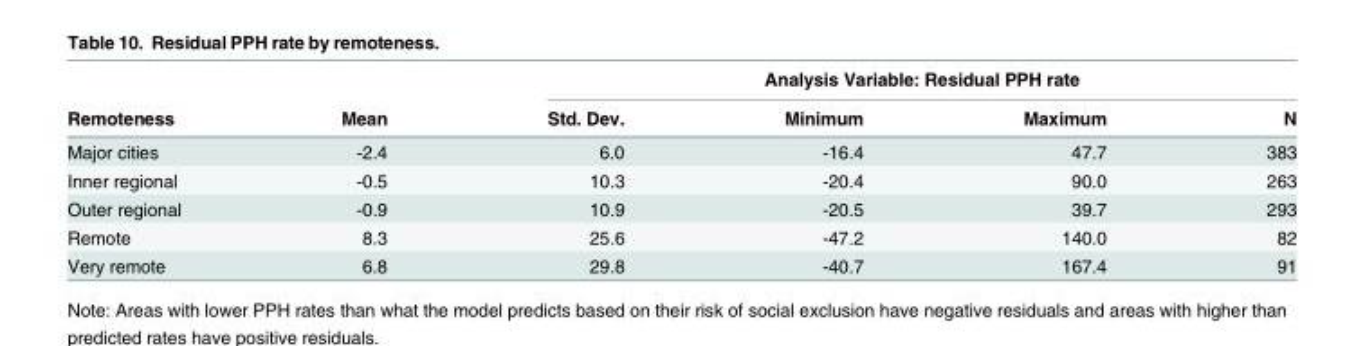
<table><thead><tr><td rowspan="2">Remoteness</td><td rowspan="2">Mean</td><td colspan="4">Analysis Variable: Residual PPH rate</td></tr><tr><td>Std. Dev.</td><td>Minimum</td><td>Maximum</td><td>N</td></tr></thead><tbody><tr><td>Major cities</td><td>-2.4</td><td>6.0</td><td>-16.4</td><td>47.7</td><td>383</td></tr><tr><td>Inner regional</td><td>-0.5</td><td>10.3</td><td>-20.4</td><td>90.0</td><td>263</td></tr><tr><td>Outer regional</td><td>-0.9</td><td>10.9</td><td>-20.5</td><td>39.7</td><td>293</td></tr><tr><td>Remote</td><td>8.3</td><td>25.6</td><td>-47.2</td><td>140.0</td><td>82</td></tr><tr><td>Very remote</td><td>6.8</td><td>29.8</td><td>-40.7</td><td>167.4</td><td>91</td></tr></tbody></table>